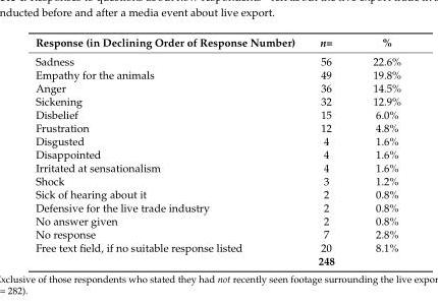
<table><thead><tr><td>Response (in Declining Order of Response Number)</td><td>n=</td><td>%</td></tr></thead><tbody><tr><td>Sadness</td><td>56</td><td>22.6%</td></tr><tr><td>Empathy for the animals</td><td>49</td><td>19.8%</td></tr><tr><td>Anger</td><td>36</td><td>14.5%</td></tr><tr><td>Sickening</td><td>32</td><td>12.9%</td></tr><tr><td>Disbelief</td><td>15</td><td>6.0%</td></tr><tr><td>Frustration</td><td>12</td><td>4.8%</td></tr><tr><td>Disgusted</td><td>4</td><td>1.6%</td></tr><tr><td>Disappointed</td><td>4</td><td>1.6%</td></tr><tr><td>Irritated at sensationalism</td><td>4</td><td>1.6%</td></tr><tr><td>Shock</td><td>3</td><td>1.2%</td></tr><tr><td>Sick of hearing about it</td><td>2</td><td>0.8%</td></tr><tr><td>Defensive for the live trade industry</td><td>2</td><td>0.8%</td></tr><tr><td>No answer given</td><td>2</td><td>0.8%</td></tr><tr><td>No response</td><td>7</td><td>2.8%</td></tr><tr><td rowspan="2">Free text field, if no suitable response listed</td><td>20</td><td>8.1%</td></tr><tr><td>248</td><td></td></tr></tbody></table>